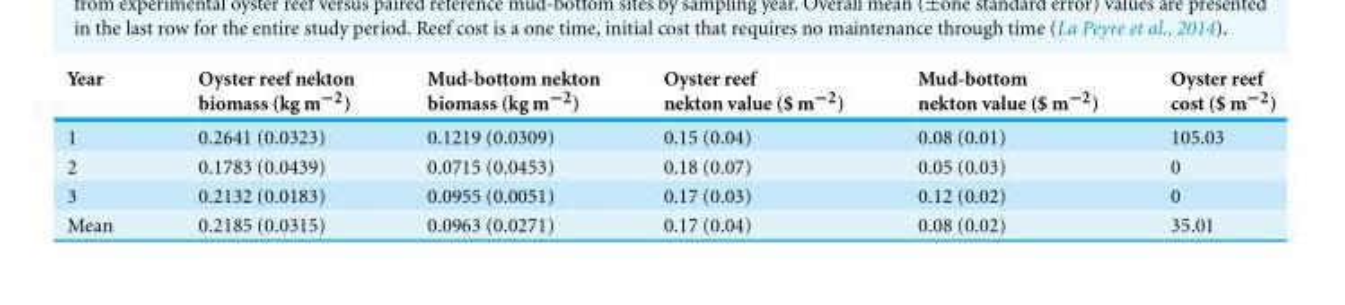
<table><thead><tr><td>Year</td><td>Oyster reef nekton biomass (kg m<sup>−2</sup>)</td><td>Mud-bottom nekton biomass (kg m<sup>−2</sup>)</td><td>Oyster reef nekton value ($ m<sup>−2</sup>)</td><td>Mud-bottom nekton value ($ m<sup>−2</sup>)</td><td>Oyster reef cost ($ m<sup>−2</sup>)</td></tr></thead><tbody><tr><td>1</td><td>0.2641 (0.0323)</td><td>0.1219 (0.0309)</td><td>0.15 (0.04)</td><td>0.08 (0.01)</td><td>105.03</td></tr><tr><td>2</td><td>0.1783 (0.0439)</td><td>0.0715 (0.0453)</td><td>0.18 (0.07)</td><td>0.05 (0.03)</td><td>0</td></tr><tr><td>3</td><td>0.2132 (0.0183)</td><td>0.0955 (0.0051)</td><td>0.17 (0.03)</td><td>0.12 (0.02)</td><td>0</td></tr><tr><td>Mean</td><td>0.2185 (0.0315)</td><td>0.0963 (0.0271)</td><td>0.17 (0.04)</td><td>0.08 (0.02)</td><td>35.01</td></tr></tbody></table>